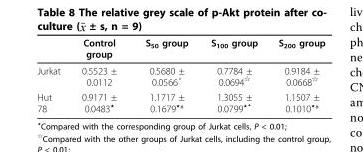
<table><thead><tr><td></td><td>Control group</td><td>S<sub>50</sub> group</td><td>S<sub>100</sub> group</td><td>S<sub>200</sub> group</td></tr></thead><tbody><tr><td>Jurkat</td><td>0.5523 ± 0.0112</td><td>0.5680 ± 0.0566<sup>▵</sup></td><td>0.7784 ± 0.0694<sup>✩</sup></td><td>0.9184 ± 0.0668<sup>✩</sup></td></tr><tr><td>Hut 78</td><td>0.9171 ± 0.0483<sup>⋆</sup></td><td>1.1717 ± 0.1679<sup>⋆</sup>*</td><td>1.3055 ± 0.0799<sup>⋆▴</sup></td><td>1.1507 ± 0.1010<sup>⋆</sup>*</td></tr></tbody></table>